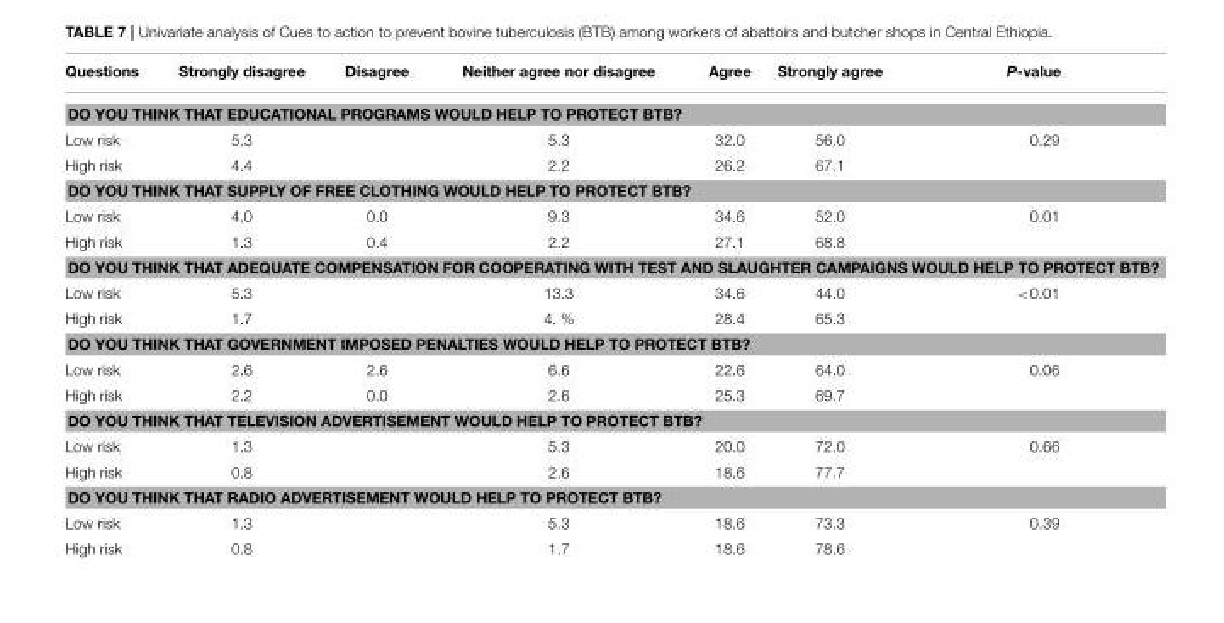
<table><thead><tr><td>Questions</td><td>Strongly disagree</td><td>Disagree</td><td>Neither agree nor disagree</td><td>Agree</td><td>Strongly agree</td><td>P-value</td></tr></thead><tbody><tr><td colspan="7">DO YOU THINK THAT EDUCATIONAL PROGRAMS WOULD HELP TO PROTECT BTB?</td></tr><tr><td>Low risk</td><td>5.3</td><td></td><td>5.3</td><td>32.0</td><td>56.0</td><td>0.29</td></tr><tr><td>High risk</td><td>4.4</td><td></td><td>2.2</td><td>26.2</td><td>67.1</td><td></td></tr><tr><td colspan="7">DO YOU THINK THAT SUPPLY OF FREE CLOTHING WOULD HELP TO PROTECT BTB?</td></tr><tr><td>Low risk</td><td>4.0</td><td>0.0</td><td>9.3</td><td>34.6</td><td>52.0</td><td>0.01</td></tr><tr><td>High risk</td><td>1.3</td><td>0.4</td><td>2.2</td><td>27.1</td><td>68.8</td><td></td></tr><tr><td colspan="7">DO YOU THINK THAT ADEQUATE COMPENSATION FOR COOPERATING WITH TEST AND SLAUGHTER CAMPAIGNS WOULD HELP TO PROTECT BTB?</td></tr><tr><td>Low risk</td><td>5.3</td><td></td><td>13.3</td><td>34.6</td><td>44.0</td><td>&lt;0.01</td></tr><tr><td>High risk</td><td>1.7</td><td></td><td>4. %</td><td>28.4</td><td>65.3</td><td></td></tr><tr><td colspan="7">DO YOU THINK THAT GOVERNMENT IMPOSED PENALTIES WOULD HELP TO PROTECT BTB?</td></tr><tr><td>Low risk</td><td>2.6</td><td>2.6</td><td>6.6</td><td>22.6</td><td>64.0</td><td>0.06</td></tr><tr><td>High risk</td><td>2.2</td><td>0.0</td><td>2.6</td><td>25.3</td><td>69.7</td><td></td></tr><tr><td colspan="7">DO YOU THINK THAT TELEVISION ADVERTISEMENT WOULD HELP TO PROTECT BTB?</td></tr><tr><td>Low risk</td><td>1.3</td><td></td><td>5.3</td><td>20.0</td><td>72.0</td><td>0.66</td></tr><tr><td>High risk</td><td>0.8</td><td></td><td>2.6</td><td>18.6</td><td>77.7</td><td></td></tr><tr><td colspan="7">DO YOU THINK THAT RADIO ADVERTISEMENT WOULD HELP TO PROTECT BTB?</td></tr><tr><td>Low risk</td><td>1.3</td><td></td><td>5.3</td><td>18.6</td><td>73.3</td><td>0.39</td></tr><tr><td>High risk</td><td>0.8</td><td></td><td>1.7</td><td>18.6</td><td>78.6</td><td></td></tr></tbody></table>